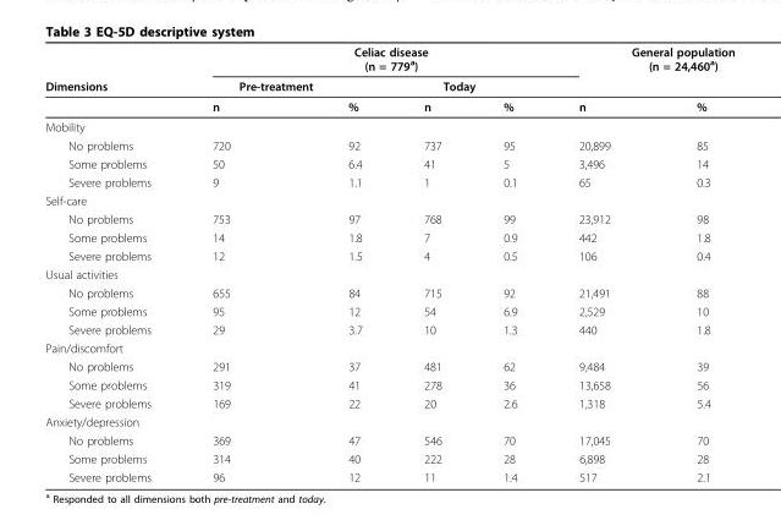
<table><thead><tr><td rowspan="3">Dimensions</td><td colspan="4">Celiac disease (n = 779<sup>a</sup>)</td><td colspan="2">General population (n = 24,460<sup>a</sup>)</td></tr><tr><td rowspan="2">Pre-treatment n</td><td colspan="3">Today</td><td rowspan="2">n</td><td rowspan="2">%</td></tr><tr><td>%</td><td>n</td><td>%</td></tr></thead><tbody><tr><td colspan="7">Mobility</td></tr><tr><td>No problems</td><td>720</td><td>92</td><td>737</td><td>95</td><td>20,899</td><td>85</td></tr><tr><td>Some problems</td><td>50</td><td>6.4</td><td>41</td><td>5</td><td>3,496</td><td>14</td></tr><tr><td>Severe problems</td><td>9</td><td>1.1</td><td>1</td><td>0.1</td><td>65</td><td>0.3</td></tr><tr><td colspan="7">Self-care</td></tr><tr><td>No problems</td><td>753</td><td>97</td><td>768</td><td>99</td><td>23,912</td><td>98</td></tr><tr><td>Some problems</td><td>14</td><td>1.8</td><td>7</td><td>0.9</td><td>442</td><td>1.8</td></tr><tr><td>Severe problems</td><td>12</td><td>1.5</td><td>4</td><td>0.5</td><td>106</td><td>0.4</td></tr><tr><td colspan="7">Usual activities</td></tr><tr><td>No problems</td><td>655</td><td>84</td><td>715</td><td>92</td><td>21,491</td><td>88</td></tr><tr><td>Some problems</td><td>95</td><td>12</td><td>54</td><td>6.9</td><td>2,529</td><td>10</td></tr><tr><td>Severe problems</td><td>29</td><td>3.7</td><td>10</td><td>1.3</td><td>440</td><td>1.8</td></tr><tr><td colspan="7">Pain/discomfort</td></tr><tr><td>No problems</td><td>291</td><td>37</td><td>481</td><td>62</td><td>9,484</td><td>39</td></tr><tr><td>Some problems</td><td>319</td><td>41</td><td>278</td><td>36</td><td>13,658</td><td>56</td></tr><tr><td>Severe problems</td><td>169</td><td>22</td><td>20</td><td>2.6</td><td>1,318</td><td>5.4</td></tr><tr><td colspan="7">Anxiety/depression</td></tr><tr><td>No problems</td><td>369</td><td>47</td><td>546</td><td>70</td><td>17,045</td><td>70</td></tr><tr><td>Some problems</td><td>314</td><td>40</td><td>222</td><td>28</td><td>6,898</td><td>28</td></tr><tr><td>Severe problems</td><td>96</td><td>12</td><td>11</td><td>1.4</td><td>517</td><td>2.1</td></tr></tbody></table>